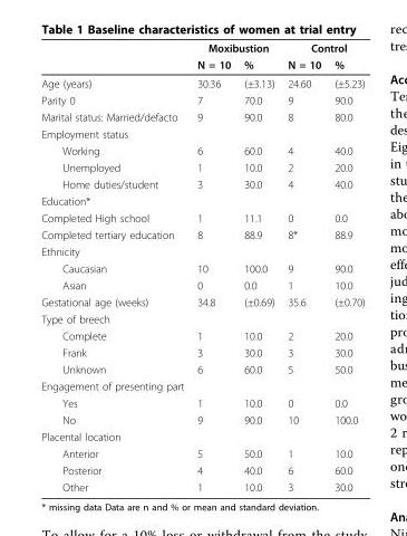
<table><thead><tr><td rowspan="2"></td><td colspan="2">Moxibustion</td><td colspan="2">Control</td></tr><tr><td>N = 10</td><td>%</td><td>N = 10</td><td>%</td></tr></thead><tbody><tr><td>Age (years)</td><td>30.36</td><td>(±3.13)</td><td>24.60</td><td>(±5.23)</td></tr><tr><td>Parity 0</td><td>7</td><td>70.0</td><td>9</td><td>90.0</td></tr><tr><td>Marital status: Married/defacto</td><td>9</td><td>90.0</td><td>8</td><td>80.0</td></tr><tr><td colspan="5">Employment status</td></tr><tr><td>Working</td><td>6</td><td>60.0</td><td>4</td><td>40.0</td></tr><tr><td>Unemployed</td><td>1</td><td>10.0</td><td>2</td><td>20.0</td></tr><tr><td>Home duties/student</td><td>3</td><td>30.0</td><td>4</td><td>40.0</td></tr><tr><td colspan="5">Education*</td></tr><tr><td>Completed High school</td><td>1</td><td>11.1</td><td>0</td><td>0.0</td></tr><tr><td>Completed tertiary education</td><td>8</td><td>88.9</td><td>8*</td><td>88.9</td></tr><tr><td colspan="5">Ethnicity</td></tr><tr><td>Caucasian</td><td>10</td><td>100.0</td><td>9</td><td>90.0</td></tr><tr><td>Asian</td><td>0</td><td>0.0</td><td>1</td><td>10.0</td></tr><tr><td>Gestational age (weeks)</td><td>34.8</td><td>(±0.69)</td><td>35.6</td><td>(±0.70)</td></tr><tr><td colspan="5">Type of breech</td></tr><tr><td>Complete</td><td>1</td><td>10.0</td><td>2</td><td>20.0</td></tr><tr><td>Frank</td><td>3</td><td>30.0</td><td>3</td><td>30.0</td></tr><tr><td>Unknown</td><td>6</td><td>60.0</td><td>5</td><td>50.0</td></tr><tr><td colspan="5">Engagement of presenting part</td></tr><tr><td>Yes</td><td>1</td><td>10.0</td><td>0</td><td>0.0</td></tr><tr><td>No</td><td>9</td><td>90.0</td><td>10</td><td>100.0</td></tr><tr><td colspan="5">Placental location</td></tr><tr><td>Anterior</td><td>5</td><td>50.0</td><td>1</td><td>10.0</td></tr><tr><td>Posterior</td><td>4</td><td>40.0</td><td>6</td><td>60.0</td></tr><tr><td>Other</td><td>1</td><td>10.0</td><td>3</td><td>30.0</td></tr></tbody></table>